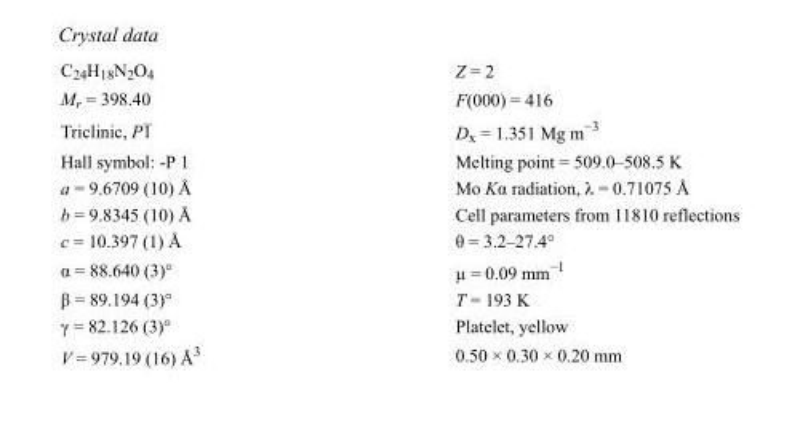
<table><tbody><tr><td>C<sub>24</sub>H<sub>18</sub>N<sub>2</sub>O<sub>4</sub></td><td>Z = 2</td></tr><tr><td>M<sub>r</sub> = 398.40</td><td>F(000) = 416</td></tr><tr><td>Triclinic, P1</td><td>D<sub>x</sub> = 1.351 Mg m<sup>−3</sup></td></tr><tr><td>Hall symbol: -P 1</td><td>Melting point = 509.0–508.5 K</td></tr><tr><td>a = 9.6709 (10) Å</td><td>Mo Kα radiation, λ = 0.71075 Å</td></tr><tr><td>b = 9.8345 (10) Å</td><td>Cell parameters from 11810 reflections</td></tr><tr><td>c = 10.397 (1) Å</td><td>θ = 3.2–27.4°</td></tr><tr><td>α = 88.640 (3)°</td><td>µ = 0.09 mm<sup>−1</sup></td></tr><tr><td>β = 89.194 (3)°</td><td>T = 193 K</td></tr><tr><td>γ = 82.126 (3)°</td><td>Platelet, yellow</td></tr><tr><td>V = 979.19 (16) Å<sup>3</sup></td><td>0.50 × 0.30 × 0.20 mm</td></tr></tbody></table>